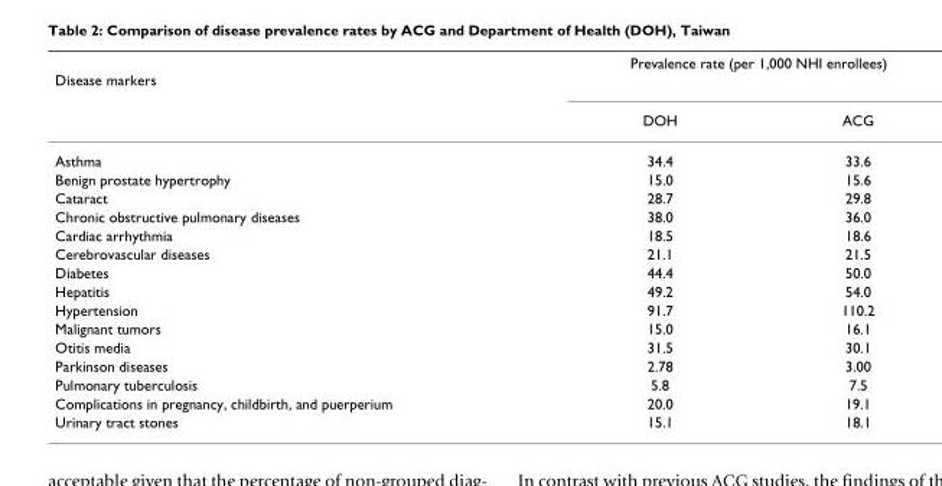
<table><thead><tr><td rowspan="2">Disease markers</td><td colspan="2">Prevalence rate (per 1,000 NHI enrollees)</td></tr><tr><td>DOH</td><td>ACG</td></tr></thead><tbody><tr><td>Asthma</td><td>34.4</td><td>33.6</td></tr><tr><td>Benign prostate hypertrophy</td><td>15.0</td><td>15.6</td></tr><tr><td>Cataract</td><td>28.7</td><td>29.8</td></tr><tr><td>Chronic obstructive pulmonary diseases</td><td>38.0</td><td>36.0</td></tr><tr><td>Cardiac arrhythmia</td><td>18.5</td><td>18.6</td></tr><tr><td>Cerebrovascular diseases</td><td>21.1</td><td>21.5</td></tr><tr><td>Diabetes</td><td>44.4</td><td>50.0</td></tr><tr><td>Hepatitis</td><td>49.2</td><td>54.0</td></tr><tr><td>Hypertension</td><td>91.7</td><td>110.2</td></tr><tr><td>Malignant tumors</td><td>15.0</td><td>16.1</td></tr><tr><td>Otitis media</td><td>31.5</td><td>30.1</td></tr><tr><td>Parkinson diseases</td><td>2.78</td><td>3.00</td></tr><tr><td>Pulmonary tuberculosis</td><td>5.8</td><td>7.5</td></tr><tr><td>Complications in pregnancy, childbirth, and puerperium</td><td>20.0</td><td>19.1</td></tr><tr><td>Urinary tract stones</td><td>15.1</td><td>18.1</td></tr></tbody></table>